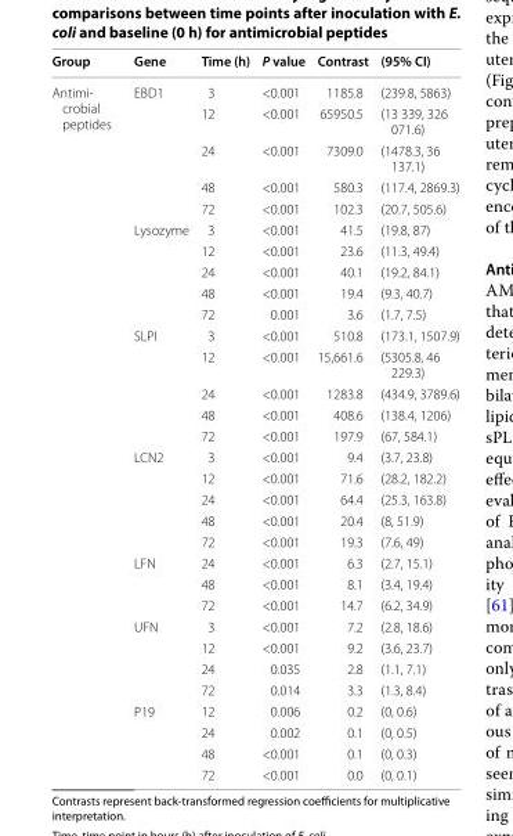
<table><thead><tr><td>Group</td><td>Gene</td><td>Time (h)</td><td>P value</td><td>Contrast</td><td>(95% CI)</td></tr></thead><tbody><tr><td rowspan="31">Antimi- crobial peptides</td><td rowspan="5">EBD1</td><td>3</td><td>&lt;0.001</td><td>1185.8</td><td>(239.8, 5863)</td></tr><tr><td>12</td><td>&lt;0.001</td><td>65950.5</td><td>(13 339, 326 071.6)</td></tr><tr><td>24</td><td>&lt;0.001</td><td>7309.0</td><td>(1478.3, 36 137.1)</td></tr><tr><td>48</td><td>&lt;0.001</td><td>580.3</td><td>(117.4, 2869.3)</td></tr><tr><td>72</td><td>&lt;0.001</td><td>102.3</td><td>(20.7, 505.6)</td></tr><tr><td rowspan="5">Lysozyme</td><td>3</td><td>&lt;0.001</td><td>41.5</td><td>(19.8, 87)</td></tr><tr><td>12</td><td>&lt;0.001</td><td>23.6</td><td>(11.3, 49.4)</td></tr><tr><td>24</td><td>&lt;0.001</td><td>40.1</td><td>(19.2, 84.1)</td></tr><tr><td>48</td><td>&lt;0.001</td><td>19.4</td><td>(9.3, 40.7)</td></tr><tr><td>72</td><td>0.001</td><td>3.6</td><td>(1.7, 7.5)</td></tr><tr><td rowspan="5">SLPI</td><td>3</td><td>&lt;0.001</td><td>510.8</td><td>(173.1, 1507.9)</td></tr><tr><td>12</td><td>&lt;0.001</td><td>15,661.6</td><td>(5305.8, 46 229.3)</td></tr><tr><td>24</td><td>&lt;0.001</td><td>1283.8</td><td>(434.9, 3789.6)</td></tr><tr><td>48</td><td>&lt;0.001</td><td>408.6</td><td>(138.4, 1206)</td></tr><tr><td>72</td><td>&lt;0.001</td><td>197.9</td><td>(67, 584.1)</td></tr><tr><td rowspan="5">LCN2</td><td>3</td><td>&lt;0.001</td><td>9.4</td><td>(3.7, 23.8)</td></tr><tr><td>12</td><td>&lt;0.001</td><td>71.6</td><td>(28.2, 182.2)</td></tr><tr><td>24</td><td>&lt;0.001</td><td>64.4</td><td>(25.3, 163.8)</td></tr><tr><td>48</td><td>&lt;0.001</td><td>20.4</td><td>(8, 51.9)</td></tr><tr><td>72</td><td>&lt;0.001</td><td>19.3</td><td>(7.6, 49)</td></tr><tr><td rowspan="3">LFN</td><td>24</td><td>&lt;0.001</td><td>6.3</td><td>(2.7, 15.1)</td></tr><tr><td>48</td><td>&lt;0.001</td><td>8.1</td><td>(3.4, 19.4)</td></tr><tr><td>72</td><td>&lt;0.001</td><td>14.7</td><td>(6.2, 34.9)</td></tr><tr><td rowspan="4">UFN</td><td>3</td><td>&lt;0.001</td><td>7.2</td><td>(2.8, 18.6)</td></tr><tr><td>12</td><td>&lt;0.001</td><td>9.2</td><td>(3.6, 23.7)</td></tr><tr><td>24</td><td>0.035</td><td>2.8</td><td>(1.1, 7.1)</td></tr><tr><td>72</td><td>0.014</td><td>3.3</td><td>(1.3, 8.4)</td></tr><tr><td rowspan="4">P19</td><td>12</td><td>0.006</td><td>0.2</td><td>(0, 0.6)</td></tr><tr><td>24</td><td>0.002</td><td>0.1</td><td>(0, 0.5)</td></tr><tr><td>48</td><td>&lt;0.001</td><td>0.1</td><td>(0, 0.3)</td></tr><tr><td>72</td><td>&lt;0.001</td><td>0.0</td><td>(0, 0.1)</td></tr></tbody></table>